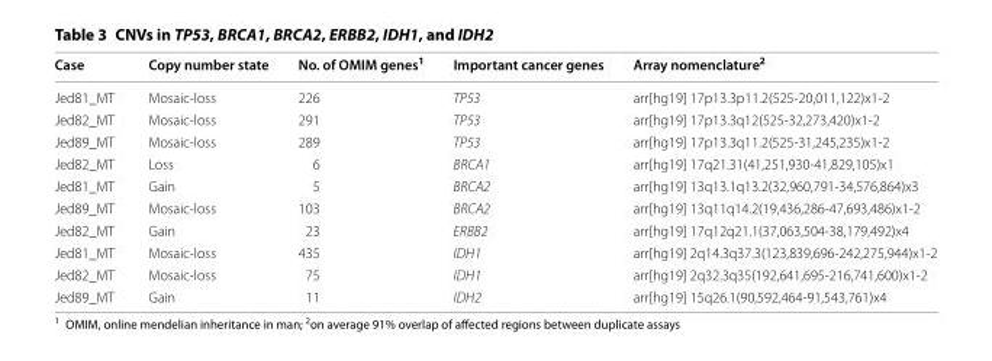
<table><thead><tr><td>Case</td><td>Copy number state</td><td>No. of OMIM genes<sup>1</sup></td><td>Important cancer genes</td><td>Array nomenclature<sup>2</sup></td></tr></thead><tbody><tr><td>Jed81_MT</td><td>Mosaic‑loss</td><td>226</td><td>TP53</td><td>arr[hg19] 17p13.3p11.2(525‑20,011,122)x1‑2</td></tr><tr><td>Jed82_MT</td><td>Mosaic‑loss</td><td>291</td><td>TP53</td><td>arr[hg19] 17p13.3q12(525‑32,273,420)x1‑2</td></tr><tr><td>Jed89_MT</td><td>Mosaic‑loss</td><td>289</td><td>TP53</td><td>arr[hg19] 17p13.3q11.2(525‑31,245,235)x1‑2</td></tr><tr><td>Jed82_MT</td><td>Loss</td><td>6</td><td>BRCA1</td><td>arr[hg19] 17q21.31(41,251,930‑41,829,105)x1</td></tr><tr><td>Jed81_MT</td><td>Gain</td><td>5</td><td>BRCA2</td><td>arr[hg19] 13q13.1q13.2(32,960,791‑34,576,864)x3</td></tr><tr><td>Jed89_MT</td><td>Mosaic‑loss</td><td>103</td><td>BRCA2</td><td>arr[hg19] 13q11q14.2(19,436,286‑47,693,486)x1‑2</td></tr><tr><td>Jed82_MT</td><td>Gain</td><td>23</td><td>ERBB2</td><td>arr[hg19] 17q12q21.1(37,063,504‑38,179,492)x4</td></tr><tr><td>Jed81_MT</td><td>Mosaic‑loss</td><td>435</td><td>IDH1</td><td>arr[hg19] 2q14.3q37.3(123,839,696‑242,275,944)x1‑2</td></tr><tr><td>Jed82_MT</td><td>Mosaic‑loss</td><td>75</td><td>IDH1</td><td>arr[hg19] 2q32.3q35(192,641,695‑216,741,600)x1‑2</td></tr><tr><td>Jed89_MT</td><td>Gain</td><td>11</td><td>IDH2</td><td>arr[hg19] 15q26.1(90,592,464‑91,543,761)x4</td></tr></tbody></table>